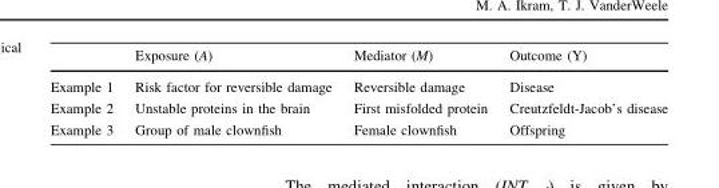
<table><thead><tr><td></td><td>Exposure (A)</td><td>Mediator (M)</td><td>Outcome (Y)</td></tr></thead><tbody><tr><td>Example 1</td><td>Risk factor for reversible damage</td><td>Reversible damage</td><td>Disease</td></tr><tr><td>Example 2</td><td>Unstable proteins in the brain</td><td>First misfolded protein</td><td>Creutzfeldt-Jacob’s disease</td></tr><tr><td>Example 3</td><td>Group of male clownfish</td><td>Female clownfish</td><td>Offspring</td></tr></tbody></table>